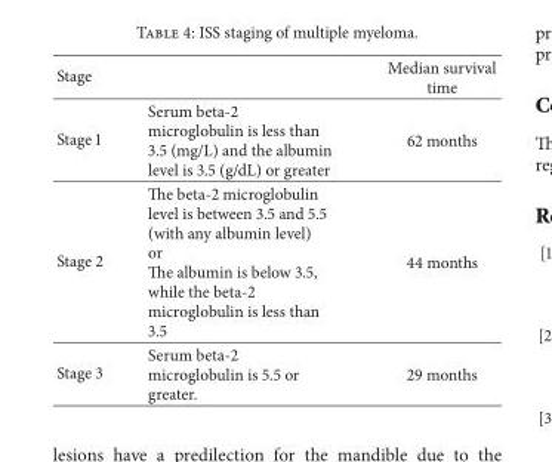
<table><thead><tr><td>Stage</td><td></td><td>Median survival time</td></tr></thead><tbody><tr><td>Stage 1</td><td>Serum beta-2 microglobulin is less than 3.5 (mg/L) and the albumin level is 3.5 (g/dL) or greater</td><td>62 months</td></tr><tr><td>Stage 2</td><td>The beta-2 microglobulin level is between 3.5 and 5.5 (with any albumin level) or The albumin is below 3.5, while the beta-2 microglobulin is less than 3.5</td><td>44 months</td></tr><tr><td>Stage 3</td><td>Serum beta-2 microglobulin is 5.5 or greater.</td><td>29 months</td></tr></tbody></table>